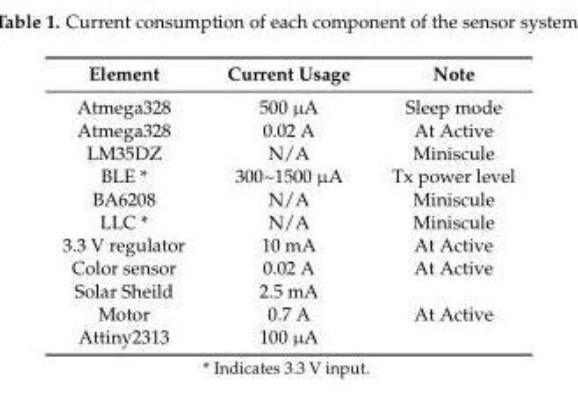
<table><thead><tr><td>Element</td><td>Current Usage</td><td>Note</td></tr></thead><tbody><tr><td>Atmega328</td><td>500 µA</td><td>Sleep mode</td></tr><tr><td>Atmega328</td><td>0.02 A</td><td>At Active</td></tr><tr><td>LM35DZ</td><td>N/A</td><td>Miniscule</td></tr><tr><td>BLE *</td><td>300~1500 µA</td><td>Tx power level</td></tr><tr><td>BA6208</td><td>N/A</td><td>Miniscule</td></tr><tr><td>LLC *</td><td>N/A</td><td>Miniscule</td></tr><tr><td>3.3 V regulator</td><td>10 mA</td><td>At Active</td></tr><tr><td>Color sensor</td><td>0.02 A</td><td>At Active</td></tr><tr><td>Solar Sheild</td><td>2.5 mA</td><td></td></tr><tr><td>Motor</td><td>0.7 A</td><td>At Active</td></tr><tr><td>Attiny2313</td><td>100 µA</td><td></td></tr></tbody></table>